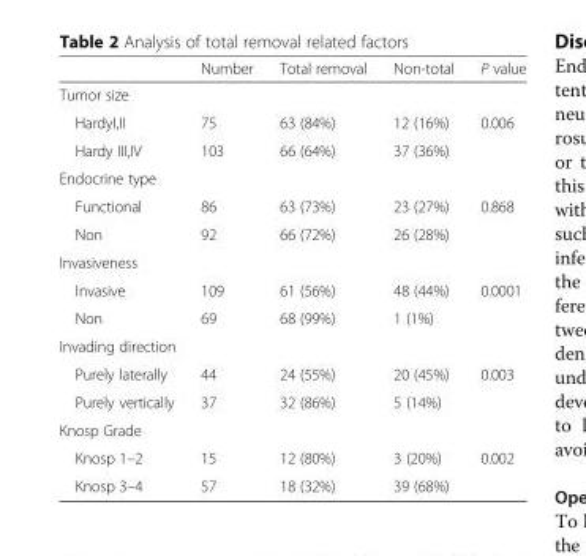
<table><thead><tr><td></td><td>Number</td><td>Total removal</td><td>Non-total</td><td>P value</td></tr></thead><tbody><tr><td colspan="5">Tumor size</td></tr><tr><td>HardyI,II</td><td>75</td><td>63 (84%)</td><td>12 (16%)</td><td rowspan="2">0.006</td></tr><tr><td>Hardy III,IV</td><td>103</td><td>66 (64%)</td><td>37 (36%)</td></tr><tr><td colspan="5">Endocrine type</td></tr><tr><td>Functional</td><td>86</td><td>63 (73%)</td><td>23 (27%)</td><td rowspan="2">0.868</td></tr><tr><td>Non</td><td>92</td><td>66 (72%)</td><td>26 (28%)</td></tr><tr><td colspan="5">Invasiveness</td></tr><tr><td>Invasive</td><td>109</td><td>61 (56%)</td><td>48 (44%)</td><td rowspan="2">0.0001</td></tr><tr><td>Non</td><td>69</td><td>68 (99%)</td><td>1 (1%)</td></tr><tr><td colspan="5">Invading direction</td></tr><tr><td>Purely laterally</td><td>44</td><td>24 (55%)</td><td>20 (45%)</td><td rowspan="2">0.003</td></tr><tr><td>Purely vertically</td><td>37</td><td>32 (86%)</td><td>5 (14%)</td></tr><tr><td colspan="5">Knosp Grade</td></tr><tr><td>Knosp 1–2</td><td>15</td><td>12 (80%)</td><td>3 (20%)</td><td rowspan="2">0.002</td></tr><tr><td>Knosp 3–4</td><td>57</td><td>18 (32%)</td><td>39 (68%)</td></tr></tbody></table>